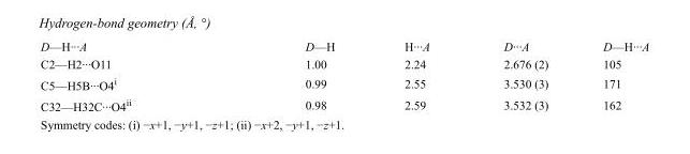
<table><tbody><tr><td>D—H···A</td><td>D—H</td><td>H···A</td><td>D···A</td><td>D—H···A</td></tr><tr><td>C2—H2···O11</td><td>1.00</td><td>2.24</td><td>2.676 (2)</td><td>105</td></tr><tr><td>C5—H5B···O4<sup>i</sup></td><td>0.99</td><td>2.55</td><td>3.530 (3)</td><td>171</td></tr><tr><td>C32—H32C···O4<sup>ii</sup></td><td>0.98</td><td>2.59</td><td>3.532 (3)</td><td>162</td></tr></tbody></table>